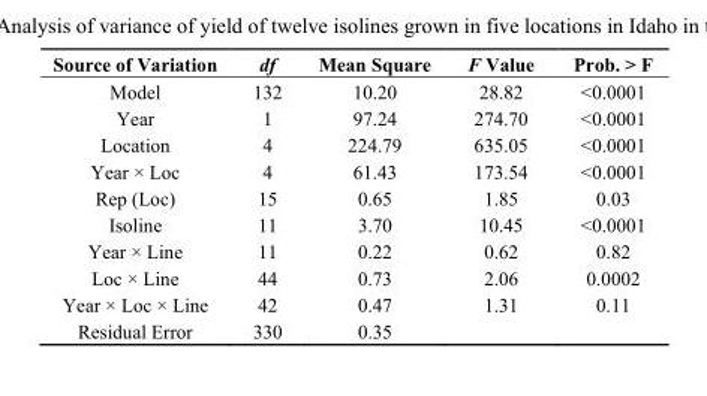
<table><thead><tr><td>Source of Variation</td><td>df</td><td>Mean Square</td><td>F Value</td><td>Prob. &gt; F</td></tr></thead><tbody><tr><td>Model</td><td>132</td><td>10.20</td><td>28.82</td><td>&lt;0.0001</td></tr><tr><td>Year</td><td>1</td><td>97.24</td><td>274.70</td><td>&lt;0.0001</td></tr><tr><td>Location</td><td>4</td><td>224.79</td><td>635.05</td><td>&lt;0.0001</td></tr><tr><td>Year × Loc</td><td>4</td><td>61.43</td><td>173.54</td><td>&lt;0.0001</td></tr><tr><td>Rep (Loc)</td><td>15</td><td>0.65</td><td>1.85</td><td>0.03</td></tr><tr><td>Isoline</td><td>11</td><td>3.70</td><td>10.45</td><td>&lt;0.0001</td></tr><tr><td>Year × Line</td><td>11</td><td>0.22</td><td>0.62</td><td>0.82</td></tr><tr><td>Loc × Line</td><td>44</td><td>0.73</td><td>2.06</td><td>0.0002</td></tr><tr><td>Year × Loc × Line</td><td>42</td><td>0.47</td><td>1.31</td><td>0.11</td></tr><tr><td>Residual Error</td><td>330</td><td>0.35</td><td></td><td></td></tr></tbody></table>